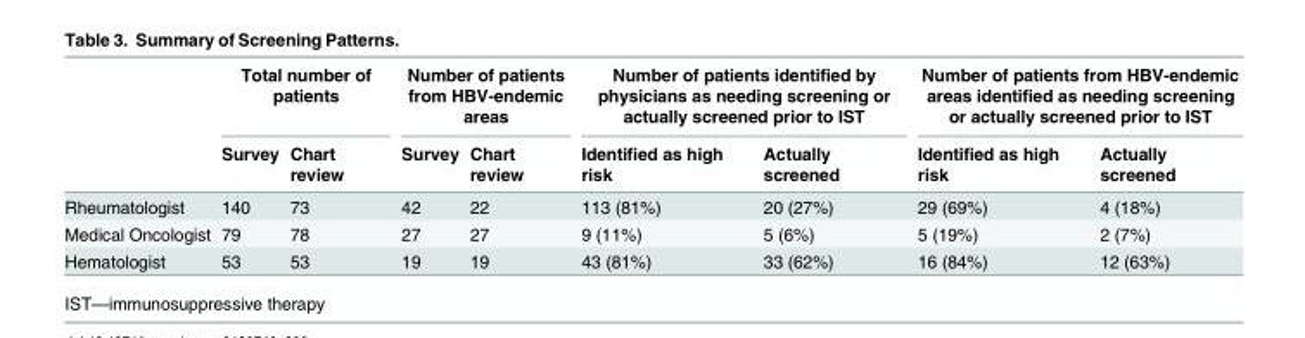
<table><thead><tr><td rowspan="2"></td><td colspan="2">Total number of patients</td><td colspan="2">Number of patients from HBV-endemic areas</td><td colspan="2">Number of patients identified by physicians as needing screening or actually screened prior to IST</td><td colspan="2">Number of patients from HBV-endemic areas identified as needing screening or actually screened prior to IST</td></tr><tr><td>Survey</td><td>Chart review</td><td>Survey</td><td>Chart review</td><td>Identified as high risk</td><td>Actually screened</td><td>Identified as high risk</td><td>Actually screened</td></tr></thead><tbody><tr><td>Rheumatologist</td><td>140</td><td>73</td><td>42</td><td>22</td><td>113 (81%)</td><td>20 (27%)</td><td>29 (69%)</td><td>4 (18%)</td></tr><tr><td>Medical Oncologist</td><td>79</td><td>78</td><td>27</td><td>27</td><td>9 (11%)</td><td>5 (6%)</td><td>5 (19%)</td><td>2 (7%)</td></tr><tr><td>Hematologist</td><td>53</td><td>53</td><td>19</td><td>19</td><td>43 (81%)</td><td>33 (62%)</td><td>16 (84%)</td><td>12 (63%)</td></tr></tbody></table>